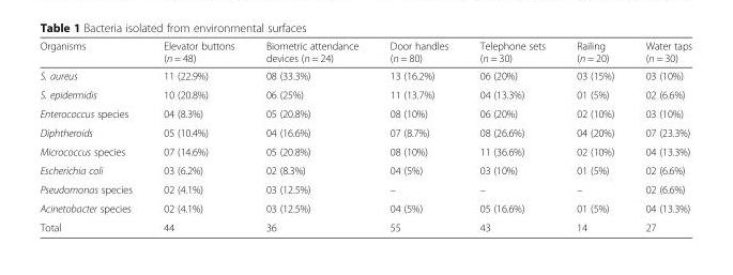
<table><thead><tr><td>Organisms</td><td>Elevator buttons (n = 48)</td><td>Biometric attendance devices (n = 24)</td><td>Door handles (n = 80)</td><td>Telephone sets (n = 30)</td><td>Railing (n = 20)</td><td>Water taps (n = 30)</td></tr></thead><tbody><tr><td>S. aureus</td><td>11 (22.9%)</td><td>08 (33.3%)</td><td>13 (16.2%)</td><td>06 (20%)</td><td>03 (15%)</td><td>03 (10%)</td></tr><tr><td>S. epidermidis</td><td>10 (20.8%)</td><td>06 (25%)</td><td>11 (13.7%)</td><td>04 (13.3%)</td><td>01 (5%)</td><td>02 (6.6%)</td></tr><tr><td>Enterococcus species</td><td>04 (8.3%)</td><td>05 (20.8%)</td><td>08 (10%)</td><td>06 (20%)</td><td>02 (10%)</td><td>03 (10%)</td></tr><tr><td>Diphtheroids</td><td>05 (10.4%)</td><td>04 (16.6%)</td><td>07 (8.7%)</td><td>08 (26.6%)</td><td>04 (20%)</td><td>07 (23.3%)</td></tr><tr><td>Micrococcus species</td><td>07 (14.6%)</td><td>05 (20.8%)</td><td>08 (10%)</td><td>11 (36.6%)</td><td>02 (10%)</td><td>04 (13.3%)</td></tr><tr><td>Escherichia coli</td><td>03 (6.2%)</td><td>02 (8.3%)</td><td>04 (5%)</td><td>03 (10%)</td><td>01 (5%)</td><td>02 (6.6%)</td></tr><tr><td>Pseudomonas species</td><td>02 (4.1%)</td><td>03 (12.5%)</td><td>–</td><td>–</td><td>–</td><td>02 (6.6%)</td></tr><tr><td>Acinetobacter species</td><td>02 (4.1%)</td><td>03 (12.5%)</td><td>04 (5%)</td><td>05 (16.6%)</td><td>01 (5%)</td><td>04 (13.3%)</td></tr><tr><td>Total</td><td>44</td><td>36</td><td>55</td><td>43</td><td>14</td><td>27</td></tr></tbody></table>